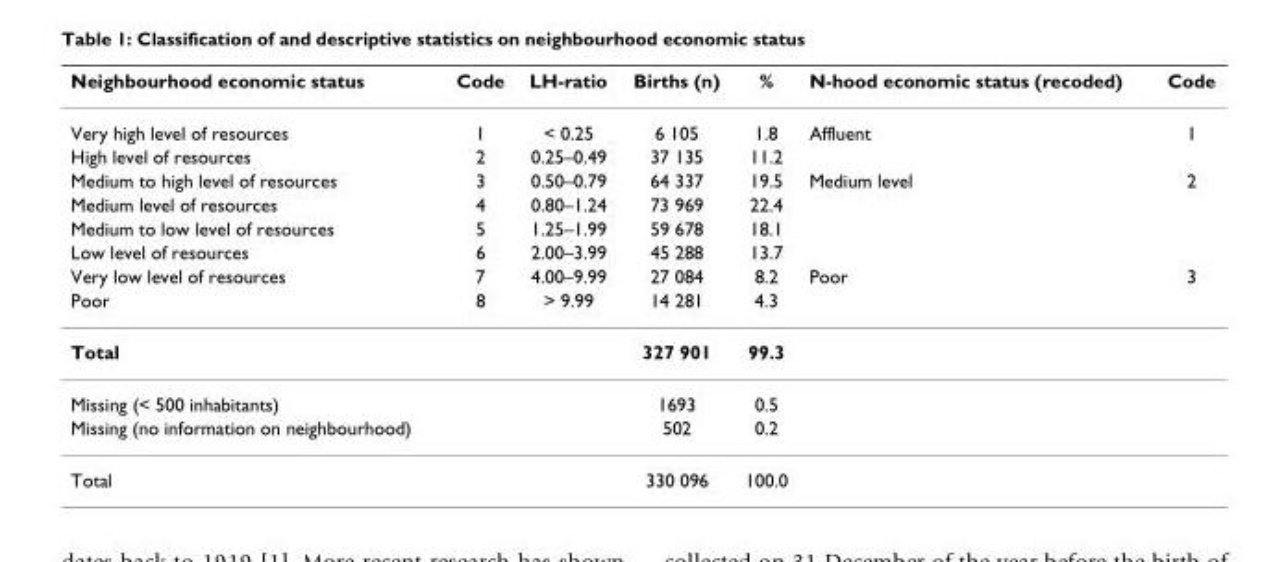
<table><thead><tr><td>Neighbourhood economic status</td><td>Code</td><td>LH-ratio</td><td>Births (n)</td><td>%</td><td>N-hood economic status (recoded)</td><td>Code</td></tr></thead><tbody><tr><td>Very high level of resources</td><td>1</td><td>&lt; 0.25</td><td>6 105</td><td>1.8</td><td>Affluent</td><td>1</td></tr><tr><td>High level of resources</td><td>2</td><td>0.25–0.49</td><td>37 135</td><td>11.2</td><td></td><td></td></tr><tr><td>Medium to high level of resources</td><td>3</td><td>0.50–0.79</td><td>64 337</td><td>19.5</td><td>Medium level</td><td>2</td></tr><tr><td>Medium level of resources</td><td>4</td><td>0.80–1.24</td><td>73 969</td><td>22.4</td><td></td><td></td></tr><tr><td>Medium to low level of resources</td><td>5</td><td>1.25–1.99</td><td>59 678</td><td>18.1</td><td></td><td></td></tr><tr><td>Low level of resources</td><td>6</td><td>2.00–3.99</td><td>45 288</td><td>13.7</td><td></td><td></td></tr><tr><td>Very low level of resources</td><td>7</td><td>4.00–9.99</td><td>27 084</td><td>8.2</td><td>Poor</td><td>3</td></tr><tr><td>Poor</td><td>8</td><td>&gt; 9.99</td><td>14 281</td><td>4.3</td><td></td><td></td></tr><tr><td>Total</td><td></td><td></td><td>327 901</td><td>99.3</td><td></td><td></td></tr><tr><td>Missing (&lt; 500 inhabitants)</td><td></td><td></td><td>1693</td><td>0.5</td><td></td><td></td></tr><tr><td>Missing (no information on neighbourhood)</td><td></td><td></td><td>502</td><td>0.2</td><td></td><td></td></tr><tr><td>Total</td><td></td><td></td><td>330 096</td><td>100.0</td><td></td><td></td></tr></tbody></table>